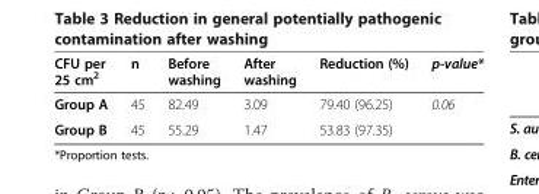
<table><thead><tr><td>CFU per 25 cm<sup>2</sup></td><td>n</td><td>Before washing</td><td>After washing</td><td>Reduction (%)</td><td>p-value*</td></tr></thead><tbody><tr><td>Group A</td><td>45</td><td>82.49</td><td>3.09</td><td>79.40 (96.25)</td><td rowspan="2">0.06</td></tr><tr><td>Group B</td><td>45</td><td>55.29</td><td>1.47</td><td>53.83 (97.35)</td></tr></tbody></table>